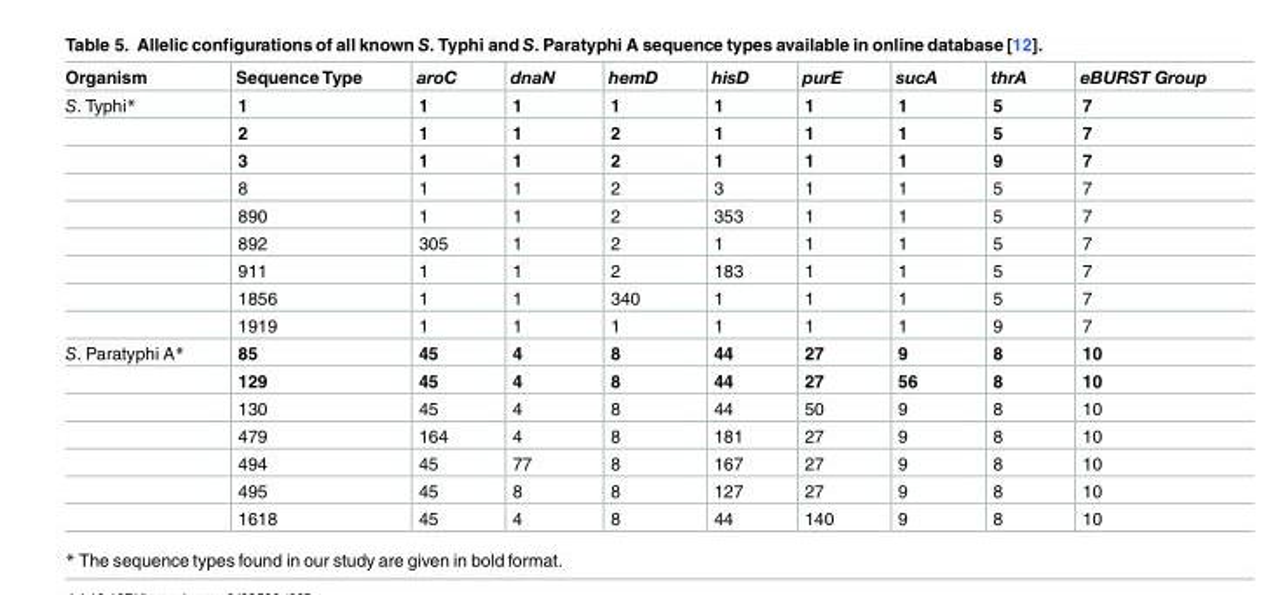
<table><thead><tr><td>Organism</td><td>Sequence Type</td><td>aroC</td><td>dnaN</td><td>hemD</td><td>hisD</td><td>purE</td><td>sucA</td><td>thrA</td><td>eBURST Group</td></tr></thead><tbody><tr><td rowspan="9">S. Typhi*</td><td>1</td><td>1</td><td>1</td><td>1</td><td>1</td><td>1</td><td>1</td><td>5</td><td>7</td></tr><tr><td>2</td><td>1</td><td>1</td><td>2</td><td>1</td><td>1</td><td>1</td><td>5</td><td>7</td></tr><tr><td>3</td><td>1</td><td>1</td><td>2</td><td>1</td><td>1</td><td>1</td><td>9</td><td>7</td></tr><tr><td>8</td><td>1</td><td>1</td><td>2</td><td>3</td><td>1</td><td>1</td><td>5</td><td>7</td></tr><tr><td>890</td><td>1</td><td>1</td><td>2</td><td>353</td><td>1</td><td>1</td><td>5</td><td>7</td></tr><tr><td>892</td><td>305</td><td>1</td><td>2</td><td>1</td><td>1</td><td>1</td><td>5</td><td>7</td></tr><tr><td>911</td><td>1</td><td>1</td><td>2</td><td>183</td><td>1</td><td>1</td><td>5</td><td>7</td></tr><tr><td>1856</td><td>1</td><td>1</td><td>340</td><td>1</td><td>1</td><td>1</td><td>5</td><td>7</td></tr><tr><td>1919</td><td>1</td><td>1</td><td>1</td><td>1</td><td>1</td><td>1</td><td>9</td><td>7</td></tr><tr><td rowspan="7">S. Paratyphi A*</td><td>85</td><td>45</td><td>4</td><td>8</td><td>44</td><td>27</td><td>9</td><td>8</td><td>10</td></tr><tr><td>129</td><td>45</td><td>4</td><td>8</td><td>44</td><td>27</td><td>56</td><td>8</td><td>10</td></tr><tr><td>130</td><td>45</td><td>4</td><td>8</td><td>44</td><td>50</td><td>9</td><td>8</td><td>10</td></tr><tr><td>479</td><td>164</td><td>4</td><td>8</td><td>181</td><td>27</td><td>9</td><td>8</td><td>10</td></tr><tr><td>494</td><td>45</td><td>77</td><td>8</td><td>167</td><td>27</td><td>9</td><td>8</td><td>10</td></tr><tr><td>495</td><td>45</td><td>8</td><td>8</td><td>127</td><td>27</td><td>9</td><td>8</td><td>10</td></tr><tr><td>1618</td><td>45</td><td>4</td><td>8</td><td>44</td><td>140</td><td>9</td><td>8</td><td>10</td></tr></tbody></table>